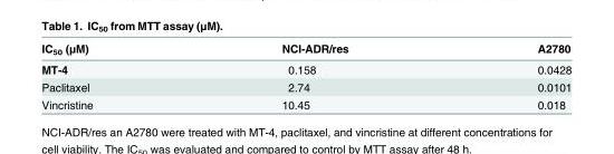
<table><thead><tr><td>IC<sub>50</sub> (μM)</td><td>NCI-ADR/res</td><td>A2780</td></tr></thead><tbody><tr><td>MT-4</td><td>0.158</td><td>0.0428</td></tr><tr><td>Paclitaxel</td><td>2.74</td><td>0.0101</td></tr><tr><td>Vincristine</td><td>10.45</td><td>0.018</td></tr></tbody></table>